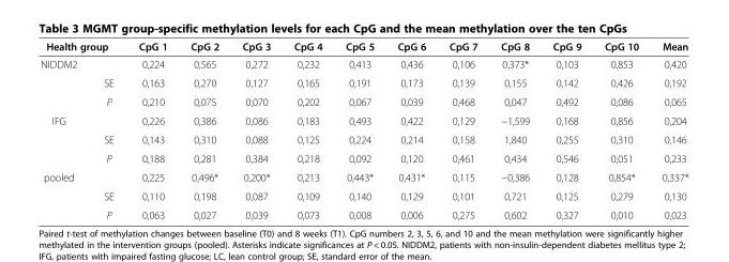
<table><thead><tr><td colspan="2">Health group</td><td rowspan="2">CpG 1 0,224</td><td rowspan="2">CpG 2 0,565</td><td rowspan="2">CpG 3 0,272</td><td rowspan="2">CpG 4 0,232</td><td rowspan="2">CpG 5 0,413</td><td rowspan="2">CpG 6 0,436</td><td rowspan="2">CpG 7 0,106</td><td rowspan="2">CpG 8 0,373*</td><td rowspan="2">CpG 9 0,103</td><td rowspan="2">CpG 10 0,853</td><td rowspan="2">Mean 0,420</td></tr><tr><td>NIDDM2</td><td></td></tr></thead><tbody><tr><td></td><td>SE</td><td>0,163</td><td>0,270</td><td>0,127</td><td>0,165</td><td>0,191</td><td>0,173</td><td>0,139</td><td>0,155</td><td>0,142</td><td>0,426</td><td>0,192</td></tr><tr><td></td><td>P</td><td>0,210</td><td>0,075</td><td>0,070</td><td>0,202</td><td>0,067</td><td>0,039</td><td>0,468</td><td>0,047</td><td>0,492</td><td>0,086</td><td>0,065</td></tr><tr><td rowspan="3">IFG</td><td></td><td>0,226</td><td>0,386</td><td>0,086</td><td>0,183</td><td>0,493</td><td>0,422</td><td>0,129</td><td>−1,599</td><td>0,168</td><td>0,856</td><td>0,204</td></tr><tr><td>SE</td><td>0,143</td><td>0,310</td><td>0,088</td><td>0,125</td><td>0,224</td><td>0,214</td><td>0,158</td><td>1,840</td><td>0,255</td><td>0,310</td><td>0,146</td></tr><tr><td>P</td><td>0,188</td><td>0,281</td><td>0,384</td><td>0,218</td><td>0,092</td><td>0,120</td><td>0,461</td><td>0,434</td><td>0,546</td><td>0,051</td><td>0,233</td></tr><tr><td rowspan="3">pooled</td><td></td><td>0,225</td><td>0,496*</td><td>0,200*</td><td>0,213</td><td>0,443*</td><td>0,431*</td><td>0,115</td><td>−0,386</td><td>0,128</td><td>0,854*</td><td>0,337*</td></tr><tr><td>SE</td><td>0,110</td><td>0,198</td><td>0,087</td><td>0,109</td><td>0,140</td><td>0,129</td><td>0,101</td><td>0,721</td><td>0,125</td><td>0,279</td><td>0,130</td></tr><tr><td>P</td><td>0,063</td><td>0,027</td><td>0,039</td><td>0,073</td><td>0,008</td><td>0,006</td><td>0,275</td><td>0,602</td><td>0,327</td><td>0,010</td><td>0,023</td></tr></tbody></table>